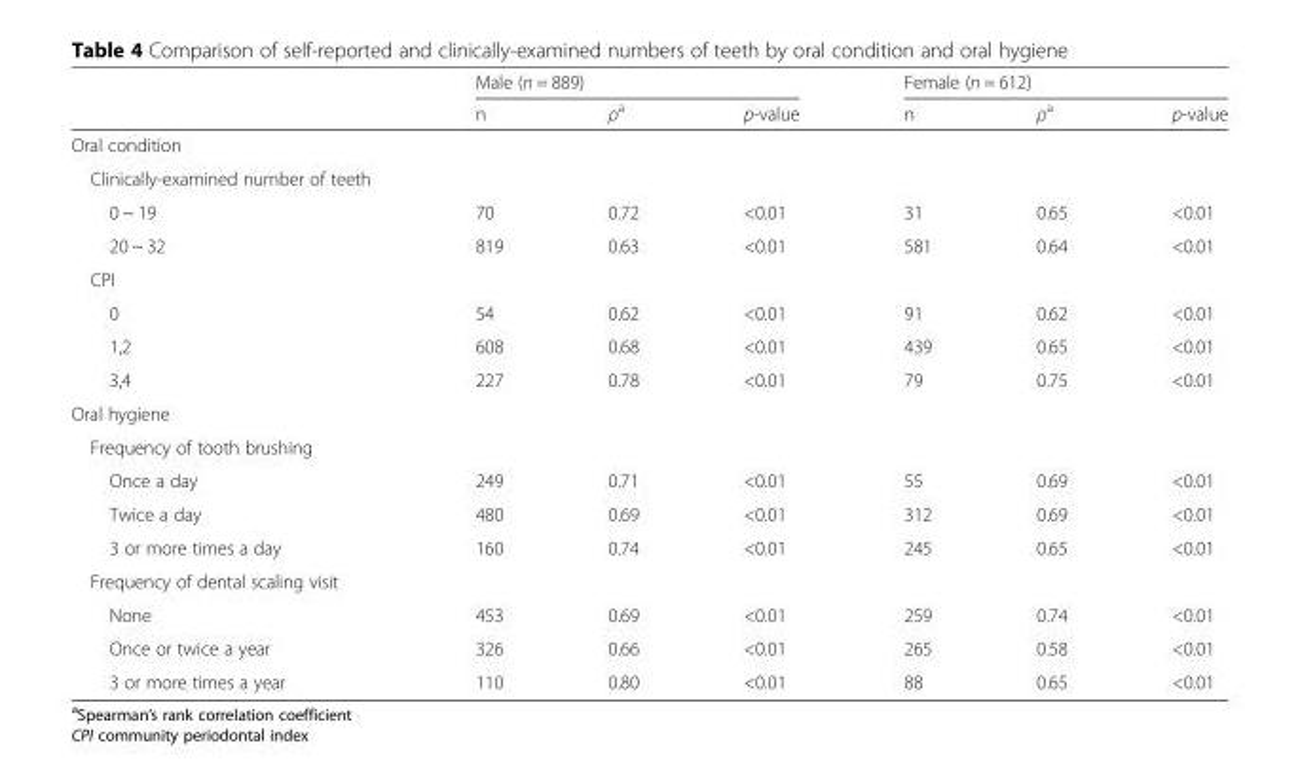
<table><thead><tr><td rowspan="2"></td><td colspan="3">Male (n = 889)</td><td colspan="3">Female (n = 612)</td></tr><tr><td>n</td><td>ρ<sup>a</sup></td><td>p-value</td><td>n</td><td>ρ<sup>a</sup></td><td>p-value</td></tr></thead><tbody><tr><td colspan="7">Oral condition</td></tr><tr><td colspan="7">Clinically-examined number of teeth</td></tr><tr><td>0 ~ 19</td><td>70</td><td>0.72</td><td>&lt;0.01</td><td>31</td><td>0.65</td><td>&lt;0.01</td></tr><tr><td>20 ~ 32</td><td>819</td><td>0.63</td><td>&lt;0.01</td><td>581</td><td>0.64</td><td>&lt;0.01</td></tr><tr><td colspan="7">CPI</td></tr><tr><td>0</td><td>54</td><td>0.62</td><td>&lt;0.01</td><td>91</td><td>0.62</td><td>&lt;0.01</td></tr><tr><td>1,2</td><td>608</td><td>0.68</td><td>&lt;0.01</td><td>439</td><td>0.65</td><td>&lt;0.01</td></tr><tr><td>3,4</td><td>227</td><td>0.78</td><td>&lt;0.01</td><td>79</td><td>0.75</td><td>&lt;0.01</td></tr><tr><td colspan="7">Oral hygiene</td></tr><tr><td colspan="7">Frequency of tooth brushing</td></tr><tr><td>Once a day</td><td>249</td><td>0.71</td><td>&lt;0.01</td><td>55</td><td>0.69</td><td>&lt;0.01</td></tr><tr><td>Twice a day</td><td>480</td><td>0.69</td><td>&lt;0.01</td><td>312</td><td>0.69</td><td>&lt;0.01</td></tr><tr><td>3 or more times a day</td><td>160</td><td>0.74</td><td>&lt;0.01</td><td>245</td><td>0.65</td><td>&lt;0.01</td></tr><tr><td colspan="7">Frequency of dental scaling visit</td></tr><tr><td>None</td><td>453</td><td>0.69</td><td>&lt;0.01</td><td>259</td><td>0.74</td><td>&lt;0.01</td></tr><tr><td>Once or twice a year</td><td>326</td><td>0.66</td><td>&lt;0.01</td><td>265</td><td>0.58</td><td>&lt;0.01</td></tr><tr><td>3 or more times a year</td><td>110</td><td>0.80</td><td>&lt;0.01</td><td>88</td><td>0.65</td><td>&lt;0.01</td></tr></tbody></table>